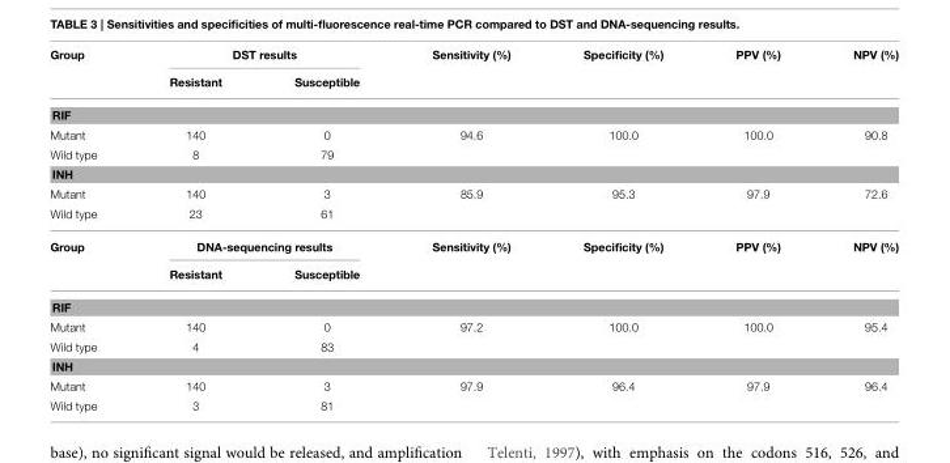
<table><thead><tr><td rowspan="2">Group</td><td colspan="2">DST results</td><td rowspan="2">Sensitivity (%)</td><td rowspan="2">Specificity (%)</td><td rowspan="2">PPV (%)</td><td rowspan="2">NPV (%)</td></tr><tr><td>Resistant</td><td>Susceptible</td></tr></thead><tbody><tr><td colspan="7">RIF</td></tr><tr><td>Mutant</td><td>140</td><td>0</td><td>94.6</td><td>100.0</td><td>100.0</td><td>90.8</td></tr><tr><td>Wild type</td><td>8</td><td>79</td><td></td><td></td><td></td><td></td></tr><tr><td colspan="7">INH</td></tr><tr><td>Mutant</td><td>140</td><td>3</td><td>85.9</td><td>95.3</td><td>97.9</td><td>72.6</td></tr><tr><td>Wild type</td><td>23</td><td>61</td><td></td><td></td><td></td><td></td></tr><tr><td rowspan="2">Group</td><td colspan="2">DNA-sequencing results</td><td>Sensitivity (%)</td><td>Specificity (%)</td><td>PPV (%)</td><td>NPV (%)</td></tr><tr><td>Resistant</td><td>Susceptible</td><td></td><td></td><td></td><td></td></tr><tr><td colspan="7">RIF</td></tr><tr><td>Mutant</td><td>140</td><td>0</td><td>97.2</td><td>100.0</td><td>100.0</td><td>95.4</td></tr><tr><td>Wild type</td><td>4</td><td>83</td><td></td><td></td><td></td><td></td></tr><tr><td colspan="7">INH</td></tr><tr><td>Mutant</td><td>140</td><td>3</td><td>97.9</td><td>96.4</td><td>97.9</td><td>96.4</td></tr><tr><td>Wild type</td><td>3</td><td>81</td><td></td><td></td><td></td><td></td></tr></tbody></table>